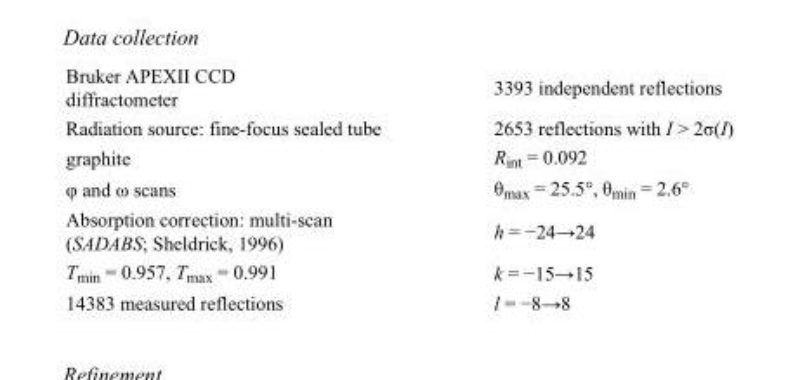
<table><tbody><tr><td>Bruker APEXII CCD diffractometer</td><td>3393 independent reflections</td></tr><tr><td>Radiation source: fine-focus sealed tube</td><td>2653 reflections with I &gt; 2σ(I)</td></tr><tr><td>graphite</td><td>R<sub>int</sub> = 0.092</td></tr><tr><td>φ and ω scans</td><td>θ<sub>max</sub> = 25.5°, θ<sub>min</sub> = 2.6°</td></tr><tr><td>Absorption correction: multi-scan (SADABS; Sheldrick, 1996)</td><td>h = −24→24</td></tr><tr><td>T<sub>min</sub> = 0.957, T<sub>max</sub> = 0.991</td><td>k = −15→15</td></tr><tr><td>14383 measured reflections</td><td>l = −8→8</td></tr></tbody></table>